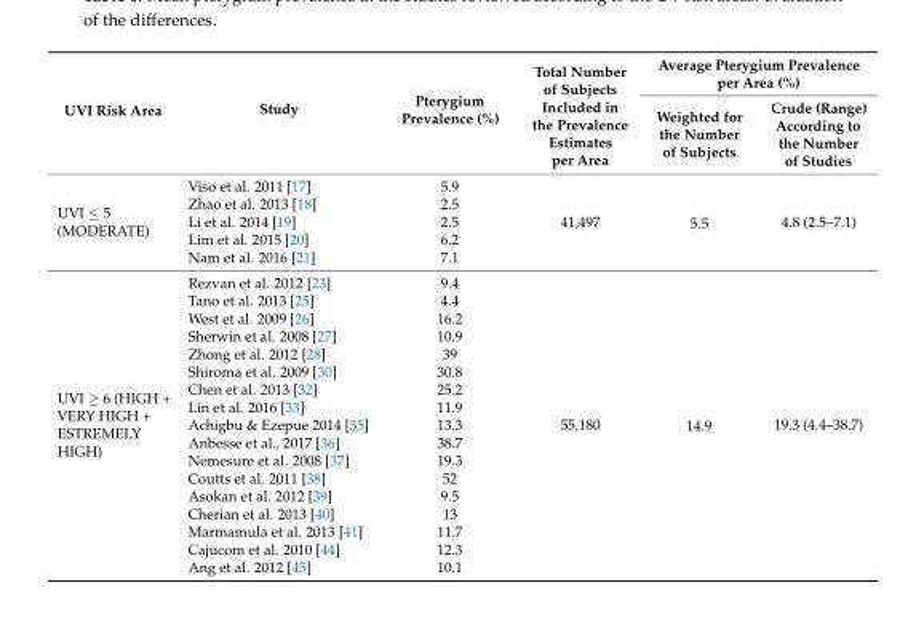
<table><thead><tr><td rowspan="2">UVI Risk Area</td><td rowspan="2">Study</td><td rowspan="2">Pterygium Prevalence (%)</td><td rowspan="2">Total Number of Subjects Included in the Prevalence Estimates per Area</td><td colspan="2">Average Pterygium Prevalence per Area (%)</td></tr><tr><td>Weighted for the Number of Subjects</td><td>Crude (Range) According to the Number of Studies</td></tr></thead><tbody><tr><td rowspan="5">UVI ≤ 5 (MODERATE)</td><td>Viso et al. 2011 [17]</td><td>5.9</td><td rowspan="5">41,497</td><td rowspan="5">5.5</td><td rowspan="5">4.8 (2.5–7.1)</td></tr><tr><td>Zhao et al. 2013 [18]</td><td>2.5</td></tr><tr><td>Li et al. 2014 [19]</td><td>2.5</td></tr><tr><td>Lim et al. 2015 [20]</td><td>6.2</td></tr><tr><td>Nam et al. 2016 [21]</td><td>7.1</td></tr><tr><td rowspan="17">UVI ≥ 6 (HIGH + VERY HIGH + ESTREMELY HIGH)</td><td>Rezvan et al. 2012 [23]</td><td>9.4</td><td rowspan="17">55,180</td><td rowspan="17">14.9</td><td rowspan="17">19.3 (4.4–38.7)</td></tr><tr><td>Tano et al. 2013 [25]</td><td>4.4</td></tr><tr><td>West et al. 2009 [26]</td><td>16.2</td></tr><tr><td>Sherwin et al. 2008 [27]</td><td>10.9</td></tr><tr><td>Zhong et al. 2012 [28]</td><td>39</td></tr><tr><td>Shiroma et al. 2009 [30]</td><td>30.8</td></tr><tr><td>Chen et al. 2013 [32]</td><td>25.2</td></tr><tr><td>Lin et al. 2016 [33]</td><td>11.9</td></tr><tr><td>Achigbu &amp; Ezepue 2014 [35]</td><td>13.3</td></tr><tr><td>Anbesse et al., 2017 [36]</td><td>38.7</td></tr><tr><td>Nemesure et al. 2008 [37]</td><td>19.3</td></tr><tr><td>Coutts et al. 2011 [38]</td><td>52</td></tr><tr><td>Asokan et al. 2012 [39]</td><td>9.5</td></tr><tr><td>Cherian et al. 2013 [40]</td><td>13</td></tr><tr><td>Marmamula et al. 2013 [41]</td><td>11.7</td></tr><tr><td>Cajucom et al. 2010 [44]</td><td>12.3</td></tr><tr><td>Ang et al. 2012 [45]</td><td>10.1</td></tr></tbody></table>